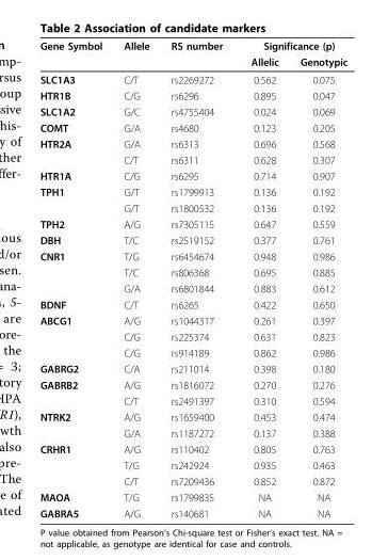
<table><thead><tr><td rowspan="2">Gene Symbol</td><td rowspan="2">Allele</td><td rowspan="2">RS number</td><td colspan="2">Significance (p)</td></tr><tr><td>Allelic</td><td>Genotypic</td></tr></thead><tbody><tr><td>SLC1A3</td><td>C/T</td><td>rs2269272</td><td>0.562</td><td>0.075</td></tr><tr><td>HTR1B</td><td>C/G</td><td>rs6296</td><td>0.895</td><td>0.047</td></tr><tr><td>SLC1A2</td><td>G/C</td><td>rs4755404</td><td>0.024</td><td>0.069</td></tr><tr><td>COMT</td><td>G/A</td><td>rs4680</td><td>0.123</td><td>0.205</td></tr><tr><td rowspan="2">HTR2A</td><td>G/A</td><td>rs6313</td><td>0.696</td><td>0.568</td></tr><tr><td>C/T</td><td>rs6311</td><td>0.628</td><td>0.307</td></tr><tr><td>HTR1A</td><td>C/G</td><td>rs6295</td><td>0.714</td><td>0.907</td></tr><tr><td rowspan="2">TPH1</td><td>G/T</td><td>rs1799913</td><td>0.136</td><td>0.192</td></tr><tr><td>G/T</td><td>rs1800532</td><td>0.136</td><td>0.192</td></tr><tr><td>TPH2</td><td>A/G</td><td>rs7305115</td><td>0.647</td><td>0.559</td></tr><tr><td>DBH</td><td>T/C</td><td>rs2519152</td><td>0.377</td><td>0.761</td></tr><tr><td rowspan="3">CNR1</td><td>T/G</td><td>rs6454674</td><td>0.948</td><td>0.986</td></tr><tr><td>T/C</td><td>rs806368</td><td>0.695</td><td>0.885</td></tr><tr><td>G/A</td><td>rs6801844</td><td>0.883</td><td>0.612</td></tr><tr><td>BDNF</td><td>C/T</td><td>rs6265</td><td>0.422</td><td>0.650</td></tr><tr><td rowspan="3">ABCG1</td><td>A/G</td><td>rs1044317</td><td>0.261</td><td>0.397</td></tr><tr><td>C/G</td><td>rs225374</td><td>0.631</td><td>0.823</td></tr><tr><td>C/G</td><td>rs914189</td><td>0.862</td><td>0.986</td></tr><tr><td>GABRG2</td><td>C/A</td><td>rs211014</td><td>0.398</td><td>0.180</td></tr><tr><td rowspan="2">GABRB2</td><td>A/G</td><td>rs1816072</td><td>0.270</td><td>0.276</td></tr><tr><td>C/T</td><td>rs2491397</td><td>0.310</td><td>0.594</td></tr><tr><td rowspan="2">NTRK2</td><td>A/G</td><td>rs1659400</td><td>0.453</td><td>0.474</td></tr><tr><td>G/A</td><td>rs1187272</td><td>0.137</td><td>0.388</td></tr><tr><td rowspan="3">CRHR1</td><td>A/G</td><td>rs110402</td><td>0.805</td><td>0.763</td></tr><tr><td>T/G</td><td>rs242924</td><td>0.935</td><td>0.463</td></tr><tr><td>C/T</td><td>rs7209436</td><td>0.852</td><td>0.872</td></tr><tr><td>MAOA</td><td>T/G</td><td>rs1799835</td><td>NA</td><td>NA</td></tr><tr><td>GABRA5</td><td>A/G</td><td>rs140681</td><td>NA</td><td>NA</td></tr></tbody></table>